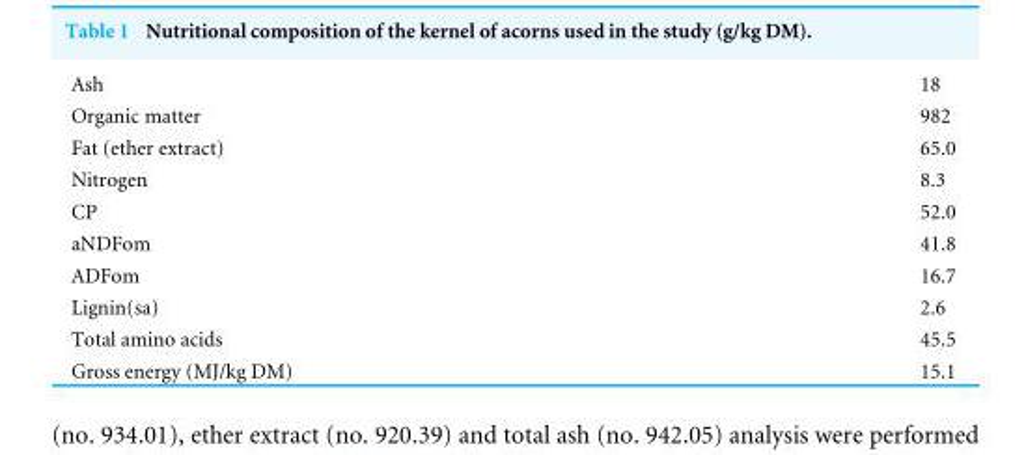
<table><tbody><tr><td>Ash</td><td>18</td></tr><tr><td>Organic matter</td><td>982</td></tr><tr><td>Fat (ether extract)</td><td>65.0</td></tr><tr><td>Nitrogen</td><td>8.3</td></tr><tr><td>CP</td><td>52.0</td></tr><tr><td>aNDFom</td><td>41.8</td></tr><tr><td>ADFom</td><td>16.7</td></tr><tr><td>Lignin(sa)</td><td>2.6</td></tr><tr><td>Total amino acids</td><td>45.5</td></tr><tr><td>Gross energy (MJ/kg DM)</td><td>15.1</td></tr></tbody></table>